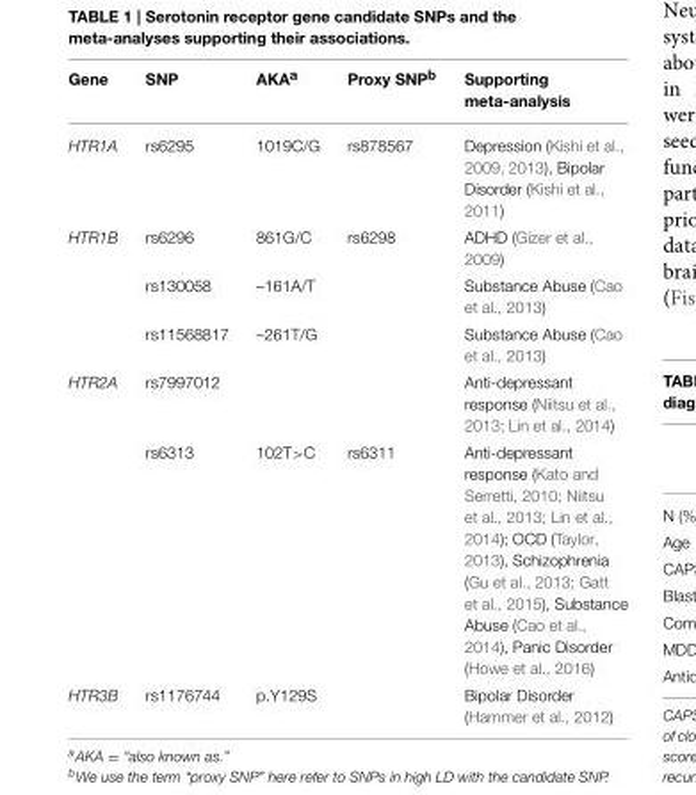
<table><thead><tr><td>Gene</td><td>SNP</td><td>AKA<sup>a</sup></td><td>Proxy SNP<sup>b</sup></td><td>Supporting meta-analysis</td></tr></thead><tbody><tr><td>HTR1A</td><td>rs6295</td><td>1019C/G</td><td>rs878567</td><td>Depression (Kishi et al., 2009, 2013), Bipolar Disorder (Kishi et al., 2011)</td></tr><tr><td rowspan="3">HTR1B</td><td>rs6296</td><td>861G/C</td><td>rs6298</td><td>ADHD (Gizer et al., 2009)</td></tr><tr><td>rs130058</td><td>–161A/T</td><td></td><td>Substance Abuse (Cao et al., 2013)</td></tr><tr><td>rs11568817</td><td>–261T/G</td><td></td><td>Substance Abuse (Cao et al., 2013)</td></tr><tr><td rowspan="2">HTR2A</td><td>rs7997012</td><td></td><td></td><td>Anti-depressant response (Niitsu et al., 2013; Lin et al., 2014)</td></tr><tr><td>rs6313</td><td>102T&gt;C</td><td>rs6311</td><td>Anti-depressant response (Kato and Serretti, 2010; Niitsu et al., 2013; Lin et al., 2014); OCD (Taylor, 2013), Schizophrenia (Gu et al., 2013; Gatt et al., 2015), Substance Abuse (Cao et al., 2014), Panic Disorder (Howe et al., 2016)</td></tr><tr><td>HTR3B</td><td>rs1176744</td><td>p.Y129S</td><td></td><td>Bipolar Disorder (Hammer et al., 2012)</td></tr></tbody></table>